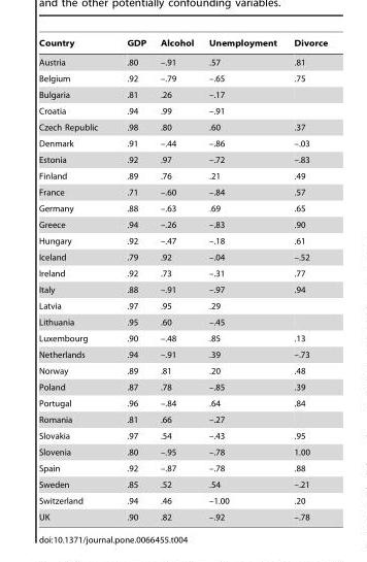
<table><thead><tr><td>Country</td><td>GDP</td><td>Alcohol</td><td>Unemployment</td><td>Divorce</td></tr></thead><tbody><tr><td>Austria</td><td>.80</td><td>–.91</td><td>.57</td><td>.81</td></tr><tr><td>Belgium</td><td>.92</td><td>–.79</td><td>–.65</td><td>.75</td></tr><tr><td>Bulgaria</td><td>.81</td><td>.26</td><td>–.17</td><td></td></tr><tr><td>Croatia</td><td>.94</td><td>.99</td><td>–.91</td><td></td></tr><tr><td>Czech Republic</td><td>.98</td><td>.80</td><td>.60</td><td>.37</td></tr><tr><td>Denmark</td><td>.91</td><td>–.44</td><td>–.86</td><td>–.03</td></tr><tr><td>Estonia</td><td>.92</td><td>.97</td><td>–.72</td><td>–.83</td></tr><tr><td>Finland</td><td>.89</td><td>.76</td><td>.21</td><td>.49</td></tr><tr><td>France</td><td>.71</td><td>–.60</td><td>–.84</td><td>.57</td></tr><tr><td>Germany</td><td>.88</td><td>–.63</td><td>.69</td><td>.65</td></tr><tr><td>Greece</td><td>.94</td><td>–.26</td><td>–.83</td><td>.90</td></tr><tr><td>Hungary</td><td>.92</td><td>–.47</td><td>–.18</td><td>.61</td></tr><tr><td>Iceland</td><td>.79</td><td>.92</td><td>–.04</td><td>–.52</td></tr><tr><td>Ireland</td><td>.92</td><td>.73</td><td>–.31</td><td>.77</td></tr><tr><td>Italy</td><td>.88</td><td>–.91</td><td>–.97</td><td>.94</td></tr><tr><td>Latvia</td><td>.97</td><td>.95</td><td>.29</td><td></td></tr><tr><td>Lithuania</td><td>.95</td><td>.60</td><td>–.45</td><td></td></tr><tr><td>Luxembourg</td><td>.90</td><td>–.48</td><td>.85</td><td>.13</td></tr><tr><td>Netherlands</td><td>.94</td><td>–.91</td><td>.39</td><td>–.73</td></tr><tr><td>Norway</td><td>.89</td><td>.81</td><td>.20</td><td>.48</td></tr><tr><td>Poland</td><td>.87</td><td>.78</td><td>–.85</td><td>.39</td></tr><tr><td>Portugal</td><td>.96</td><td>–.84</td><td>.64</td><td>.84</td></tr><tr><td>Romania</td><td>.81</td><td>.66</td><td>–.27</td><td></td></tr><tr><td>Slovakia</td><td>.97</td><td>.54</td><td>–.43</td><td>.95</td></tr><tr><td>Slovenia</td><td>.80</td><td>–.95</td><td>–.78</td><td>1.00</td></tr><tr><td>Spain</td><td>.92</td><td>–.87</td><td>–.78</td><td>.88</td></tr><tr><td>Sweden</td><td>.85</td><td>.52</td><td>.54</td><td>–.21</td></tr><tr><td>Switzerland</td><td>.94</td><td>.46</td><td>–1.00</td><td>.20</td></tr><tr><td>UK</td><td>.90</td><td>.82</td><td>–.92</td><td>–.78</td></tr></tbody></table>